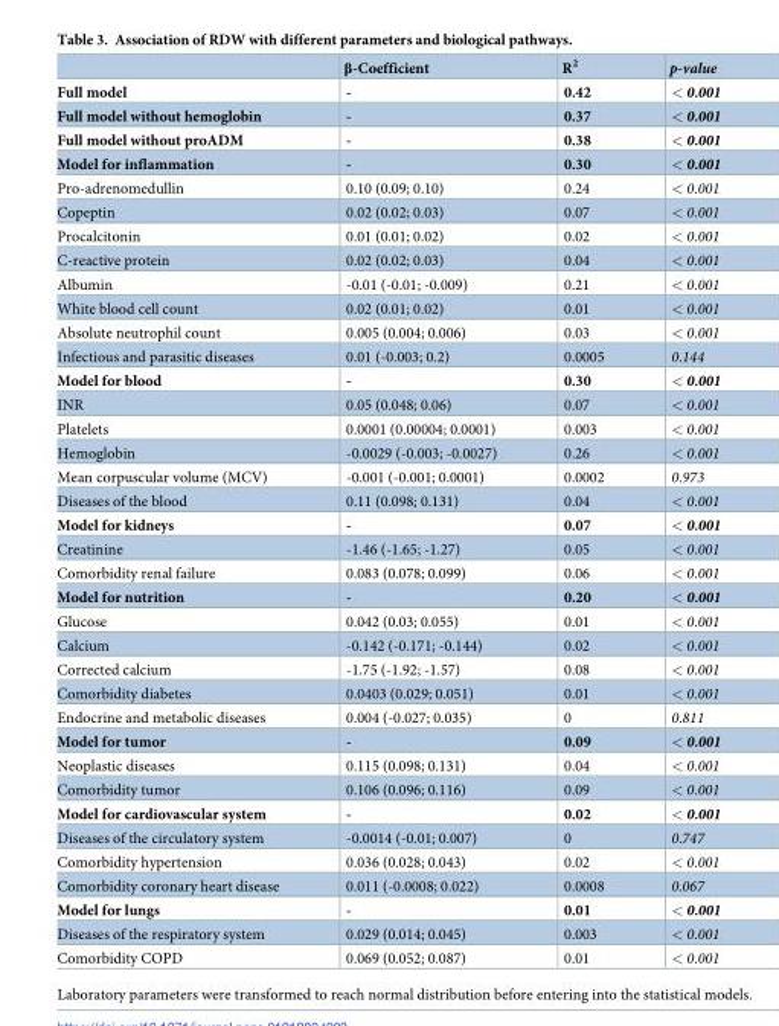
<table><thead><tr><td></td><td>β-Coefficient</td><td>R<sup>2</sup></td><td>p-value</td></tr></thead><tbody><tr><td>Full model</td><td>-</td><td>0.42</td><td>&lt; 0.001</td></tr><tr><td>Full model without hemoglobin</td><td>-</td><td>0.37</td><td>&lt; 0.001</td></tr><tr><td>Full model without proADM</td><td>-</td><td>0.38</td><td>&lt; 0.001</td></tr><tr><td>Model for inflammation</td><td>-</td><td>0.30</td><td>&lt; 0.001</td></tr><tr><td>Pro-adrenomedullin</td><td>0.10 (0.09; 0.10)</td><td>0.24</td><td>&lt; 0.001</td></tr><tr><td>Copeptin</td><td>0.02 (0.02; 0.03)</td><td>0.07</td><td>&lt; 0.001</td></tr><tr><td>Procalcitonin</td><td>0.01 (0.01; 0.02)</td><td>0.02</td><td>&lt; 0.001</td></tr><tr><td>C-reactive protein</td><td>0.02 (0.02; 0.03)</td><td>0.04</td><td>&lt; 0.001</td></tr><tr><td>Albumin</td><td>-0.01 (-0.01; -0.009)</td><td>0.21</td><td>&lt; 0.001</td></tr><tr><td>White blood cell count</td><td>0.02 (0.01; 0.02)</td><td>0.01</td><td>&lt; 0.001</td></tr><tr><td>Absolute neutrophil count</td><td>0.005 (0.004; 0.006)</td><td>0.03</td><td>&lt; 0.001</td></tr><tr><td>Infectious and parasitic diseases</td><td>0.01 (-0.003; 0.2)</td><td>0.0005</td><td>0.144</td></tr><tr><td>Model for blood</td><td>-</td><td>0.30</td><td>&lt; 0.001</td></tr><tr><td>INR</td><td>0.05 (0.048; 0.06)</td><td>0.07</td><td>&lt; 0.001</td></tr><tr><td>Platelets</td><td>0.0001 (0.00004; 0.0001)</td><td>0.003</td><td>&lt; 0.001</td></tr><tr><td>Hemoglobin</td><td>-0.0029 (-0.003; -0.0027)</td><td>0.26</td><td>&lt; 0.001</td></tr><tr><td>Mean corpuscular volume (MCV)</td><td>-0.001 (-0.001; 0.0001)</td><td>0.0002</td><td>0.973</td></tr><tr><td>Diseases of the blood</td><td>0.11 (0.098; 0.131)</td><td>0.04</td><td>&lt; 0.001</td></tr><tr><td>Model for kidneys</td><td>-</td><td>0.07</td><td>&lt; 0.001</td></tr><tr><td>Creatinine</td><td>-1.46 (-1.65; -1.27)</td><td>0.05</td><td>&lt; 0.001</td></tr><tr><td>Comorbidity renal failure</td><td>0.083 (0.078; 0.099)</td><td>0.06</td><td>&lt; 0.001</td></tr><tr><td>Model for nutrition</td><td>-</td><td>0.20</td><td>&lt; 0.001</td></tr><tr><td>Glucose</td><td>0.042 (0.03; 0.055)</td><td>0.01</td><td>&lt; 0.001</td></tr><tr><td>Calcium</td><td>-0.142 (-0.171; -0.144)</td><td>0.02</td><td>&lt; 0.001</td></tr><tr><td>Corrected calcium</td><td>-1.75 (-1.92; -1.57)</td><td>0.08</td><td>&lt; 0.001</td></tr><tr><td>Comorbidity diabetes</td><td>0.0403 (0.029; 0.051)</td><td>0.01</td><td>&lt; 0.001</td></tr><tr><td>Endocrine and metabolic diseases</td><td>0.004 (-0.027; 0.035)</td><td>0</td><td>0.811</td></tr><tr><td>Model for tumor</td><td>-</td><td>0.09</td><td>&lt; 0.001</td></tr><tr><td>Neoplastic diseases</td><td>0.115 (0.098; 0.131)</td><td>0.04</td><td>&lt; 0.001</td></tr><tr><td>Comorbidity tumor</td><td>0.106 (0.096; 0.116)</td><td>0.09</td><td>&lt; 0.001</td></tr><tr><td>Model for cardiovascular system</td><td>-</td><td>0.02</td><td>&lt; 0.001</td></tr><tr><td>Diseases of the circulatory system</td><td>-0.0014 (-0.01; 0.007)</td><td>0</td><td>0.747</td></tr><tr><td>Comorbidity hypertension</td><td>0.036 (0.028; 0.043)</td><td>0.02</td><td>&lt; 0.001</td></tr><tr><td>Comorbidity coronary heart disease</td><td>0.011 (-0.0008; 0.022)</td><td>0.0008</td><td>0.067</td></tr><tr><td>Model for lungs</td><td>-</td><td>0.01</td><td>&lt; 0.001</td></tr><tr><td>Diseases of the respiratory system</td><td>0.029 (0.014; 0.045)</td><td>0.003</td><td>&lt; 0.001</td></tr><tr><td>Comorbidity COPD</td><td>0.069 (0.052; 0.087)</td><td>0.01</td><td>&lt; 0.001</td></tr></tbody></table>